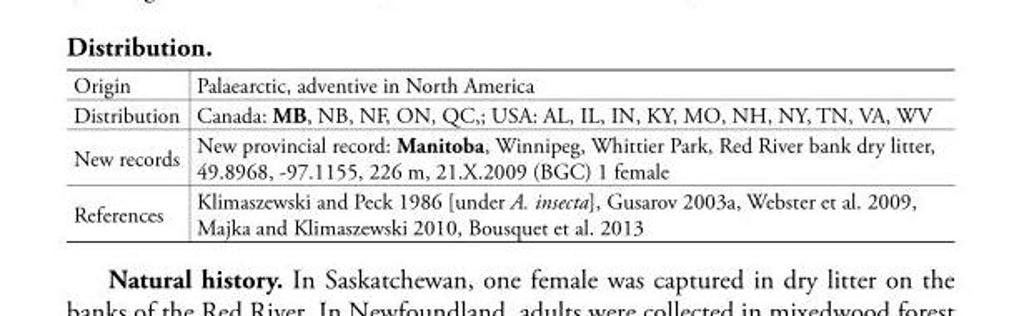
<table><tbody><tr><td>Origin</td><td>Palaearctic, adventive in North America</td></tr><tr><td>Distribution</td><td>Canada: MB, NB, NF, ON, QC,; USA: AL, IL, IN, KY, MO, NH, NY, TN, VA, WV</td></tr><tr><td>New records</td><td>New provincial record: Manitoba, Winnipeg, Whittier Park, Red River bank dry litter, 49.8968, -97.1155, 226 m, 21.X.2009 (BGC) 1 female</td></tr><tr><td>References</td><td>Klimaszewski and Peck 1986 [under A. insecta], Gusarov 2003a, Webster et al. 2009, Majka and Klimaszewski 2010, Bousquet et al. 2013</td></tr></tbody></table>